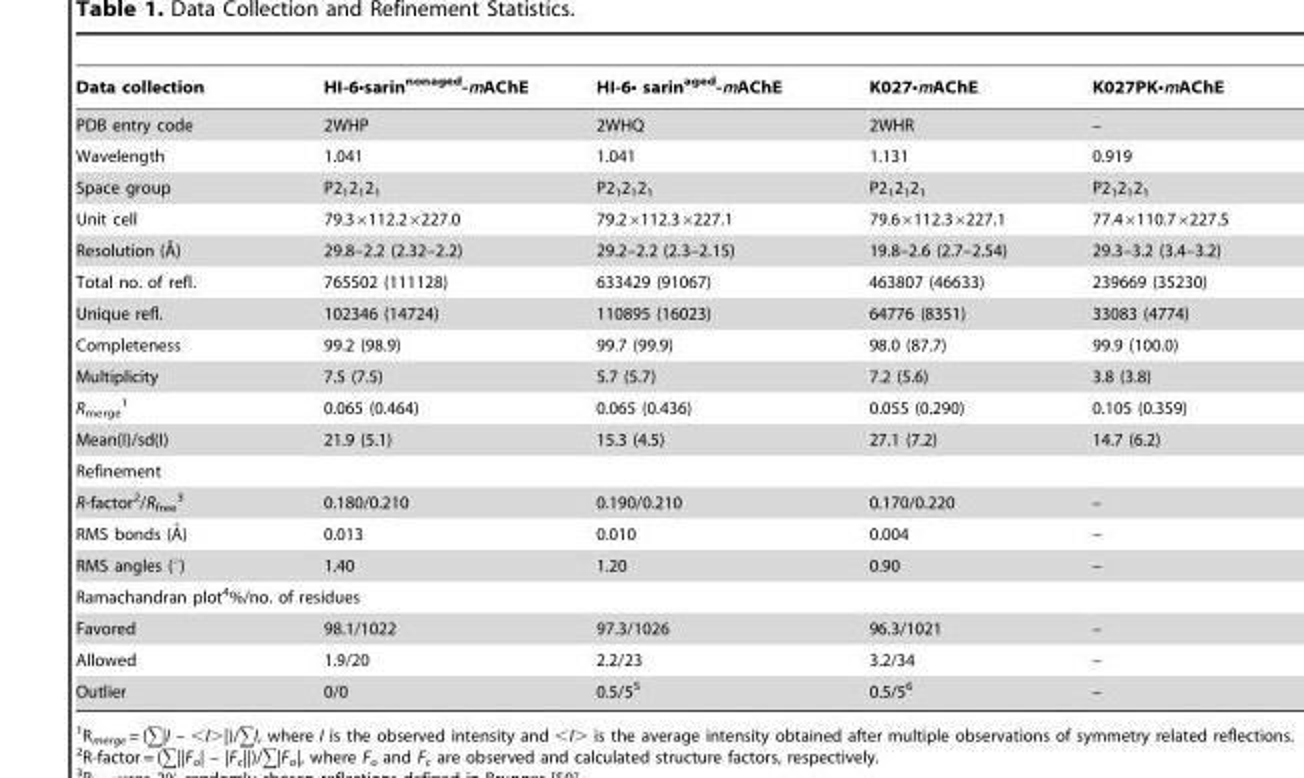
<table><thead><tr><td>Data collection</td><td>HI-6•sarin<sup>nonaged</sup>-mAChE</td><td>HI-6• sarin<sup>aged</sup>-mAChE</td><td>K027•mAChE</td><td>K027PK•mAChE</td></tr></thead><tbody><tr><td>PDB entry code</td><td>2WHP</td><td>2WHQ</td><td>2WHR</td><td>–</td></tr><tr><td>Wavelength</td><td>1.041</td><td>1.041</td><td>1.131</td><td>0.919</td></tr><tr><td>Space group</td><td>P2<sub>1</sub>2<sub>1</sub>2<sub>1</sub></td><td>P2<sub>1</sub>2<sub>1</sub>2<sub>1</sub></td><td>P2<sub>1</sub>2<sub>1</sub>2<sub>1</sub></td><td>P2<sub>1</sub>2<sub>1</sub>2<sub>1</sub></td></tr><tr><td>Unit cell</td><td>79.3×112.2×227.0</td><td>79.2×112.3×227.1</td><td>79.6×112.3×227.1</td><td>77.4×110.7×227.5</td></tr><tr><td>Resolution (A˚)</td><td>29.8–2.2 (2.32–2.2)</td><td>29.2–2.2 (2.3–2.15)</td><td>19.8–2.6 (2.7–2.54)</td><td>29.3–3.2 (3.4–3.2)</td></tr><tr><td>Total no. of refl.</td><td>765502 (111128)</td><td>633429 (91067)</td><td>463807 (46633)</td><td>239669 (35230)</td></tr><tr><td>Unique refl.</td><td>102346 (14724)</td><td>110895 (16023)</td><td>64776 (8351)</td><td>33083 (4774)</td></tr><tr><td>Completeness</td><td>99.2 (98.9)</td><td>99.7 (99.9)</td><td>98.0 (87.7)</td><td>99.9 (100.0)</td></tr><tr><td>Multiplicity</td><td>7.5 (7.5)</td><td>5.7 (5.7)</td><td>7.2 (5.6)</td><td>3.8 (3.8)</td></tr><tr><td>R<sub>merge</sub> 1</td><td>0.065 (0.464)</td><td>0.065 (0.436)</td><td>0.055 (0.290)</td><td>0.105 (0.359)</td></tr><tr><td>Mean(I)/sd(I)</td><td>21.9 (5.1)</td><td>15.3 (4.5)</td><td>27.1 (7.2)</td><td>14.7 (6.2)</td></tr><tr><td colspan="5">Refinement</td></tr><tr><td>R-factor<sup>2</sup>/R<sub>free</sub> 3</td><td>0.180/0.210</td><td>0.190/0.210</td><td>0.170/0.220</td><td>–</td></tr><tr><td>RMS bonds (A˚)</td><td>0.013</td><td>0.010</td><td>0.004</td><td>–</td></tr><tr><td>RMS angles (°)</td><td>1.40</td><td>1.20</td><td>0.90</td><td>–</td></tr><tr><td colspan="5">Ramachandran plot<sup>4</sup>%/no. of residues</td></tr><tr><td>Favored</td><td>98.1/1022</td><td>97.3/1026</td><td>96.3/1021</td><td>–</td></tr><tr><td>Allowed</td><td>1.9/20</td><td>2.2/23</td><td>3.2/34</td><td>–</td></tr><tr><td>Outlier</td><td>0/0</td><td>0.5/5<sup>5</sup></td><td>0.5/5<sup>6</sup></td><td>–</td></tr></tbody></table>